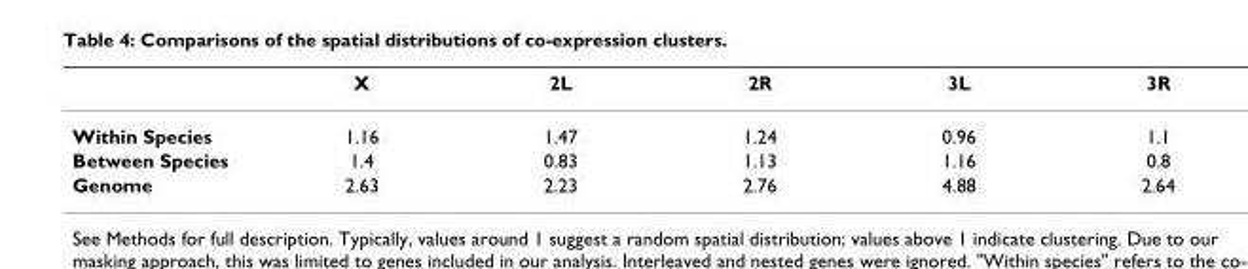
<table><thead><tr><td></td><td>X</td><td>2L</td><td>2R</td><td>3L</td><td>3R</td></tr></thead><tbody><tr><td>Within Species</td><td>1.16</td><td>1.47</td><td>1.24</td><td>0.96</td><td>1.1</td></tr><tr><td>Between Species</td><td>1.4</td><td>0.83</td><td>1.13</td><td>1.16</td><td>0.8</td></tr><tr><td>Genome</td><td>2.63</td><td>2.23</td><td>2.76</td><td>4.88</td><td>2.64</td></tr></tbody></table>